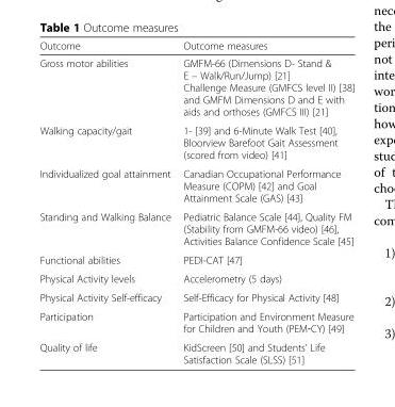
<table><thead><tr><td>Outcome</td><td>Outcome measures</td></tr></thead><tbody><tr><td>Gross motor abilities</td><td>GMFM-66 (Dimensions D- Stand &amp; E – Walk/Run/Jump) [21] Challenge Measure (GMFCS level II) [38] and GMFM Dimensions D and E with aids and orthoses (GMFCS III) [21]</td></tr><tr><td>Walking capacity/gait</td><td>1- [39] and 6-Minute Walk Test [40], Bloorview Barefoot Gait Assessment (scored from video) [41]</td></tr><tr><td>Individualized goal attainment</td><td>Canadian Occupational Performance Measure (COPM) [42] and Goal Attainment Scale (GAS) [43]</td></tr><tr><td>Standing and Walking Balance</td><td>Pediatric Balance Scale [44], Quality FM (Stability from GMFM-66 video) [46], Activities Balance Confidence Scale [45]</td></tr><tr><td>Functional abilities</td><td>PEDI-CAT [47]</td></tr><tr><td>Physical Activity levels</td><td>Accelerometry (5 days)</td></tr><tr><td>Physical Activity Self-efficacy</td><td>Self-Efficacy for Physical Activity [48]</td></tr><tr><td>Participation</td><td>Participation and Environment Measure for Children and Youth (PEM‐CY) [49]</td></tr><tr><td>Quality of life</td><td>KidScreen [50] and Students’ Life Satisfaction Scale (SLSS) [51]</td></tr></tbody></table>